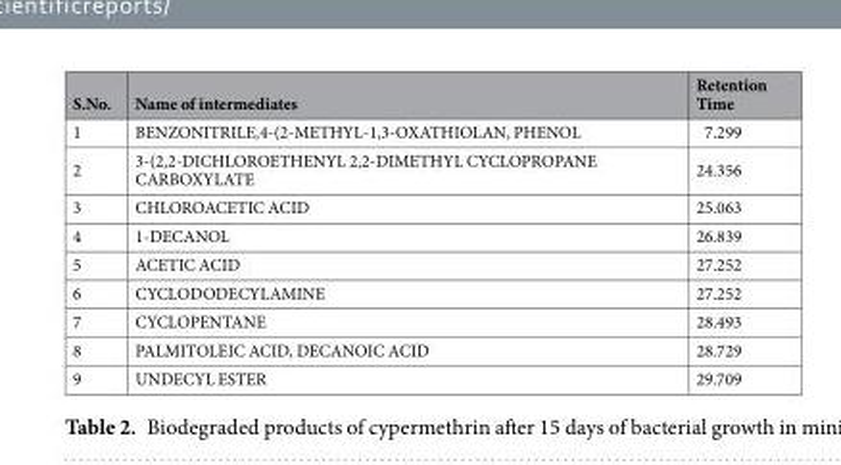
<table><thead><tr><td>S.No.</td><td>Name of intermediates</td><td>Retention Time</td></tr></thead><tbody><tr><td>1</td><td>BENZONITRILE,4-(2-METHYL-1,3-OXATHIOLAN, PHENOL</td><td>7.299</td></tr><tr><td>2</td><td>3-(2,2-DICHLOROETHENYL 2,2-DIMETHYL CYCLOPROPANE CARBOXYLATE</td><td>24.356</td></tr><tr><td>3</td><td>CHLOROACETIC ACID</td><td>25.063</td></tr><tr><td>4</td><td>1-DECANOL</td><td>26.839</td></tr><tr><td>5</td><td>ACETIC ACID</td><td>27.252</td></tr><tr><td>6</td><td>CYCLODODECYLAMINE</td><td>27.252</td></tr><tr><td>7</td><td>CYCLOPENTANE</td><td>28.493</td></tr><tr><td>8</td><td>PALMITOLEIC ACID, DECANOIC ACID</td><td>28.729</td></tr><tr><td>9</td><td>UNDECYL ESTER</td><td>29.709</td></tr></tbody></table>